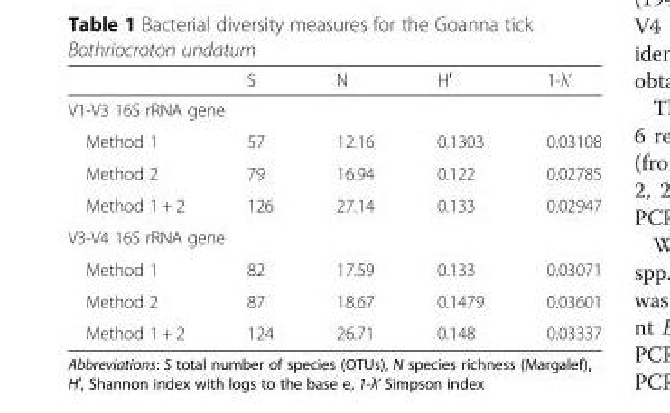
<table><thead><tr><td></td><td>S</td><td>N</td><td>H′</td><td>1-λ’</td></tr></thead><tbody><tr><td colspan="5">V1-V3 16S rRNA gene</td></tr><tr><td>Method 1</td><td>57</td><td>12.16</td><td>0.1303</td><td>0.03108</td></tr><tr><td>Method 2</td><td>79</td><td>16.94</td><td>0.122</td><td>0.02785</td></tr><tr><td>Method 1 + 2</td><td>126</td><td>27.14</td><td>0.133</td><td>0.02947</td></tr><tr><td colspan="5">V3-V4 16S rRNA gene</td></tr><tr><td>Method 1</td><td>82</td><td>17.59</td><td>0.133</td><td>0.03071</td></tr><tr><td>Method 2</td><td>87</td><td>18.67</td><td>0.1479</td><td>0.03601</td></tr><tr><td>Method 1 + 2</td><td>124</td><td>26.71</td><td>0.148</td><td>0.03337</td></tr></tbody></table>